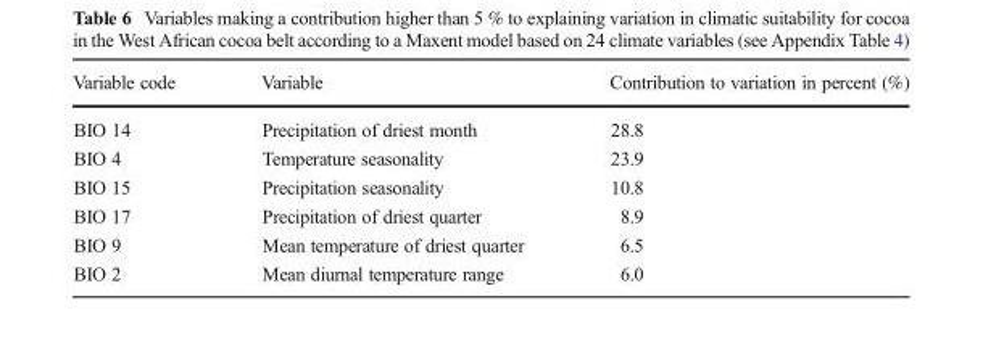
<table><thead><tr><td>Variable code</td><td>Variable</td><td>Contribution to variation in percent (%)</td></tr></thead><tbody><tr><td>BIO 14</td><td>Precipitation of driest month</td><td>28.8</td></tr><tr><td>BIO 4</td><td>Temperature seasonality</td><td>23.9</td></tr><tr><td>BIO 15</td><td>Precipitation seasonality</td><td>10.8</td></tr><tr><td>BIO 17</td><td>Precipitation of driest quarter</td><td>8.9</td></tr><tr><td>BIO 9</td><td>Mean temperature of driest quarter</td><td>6.5</td></tr><tr><td>BIO 2</td><td>Mean diurnal temperature range</td><td>6.0</td></tr></tbody></table>